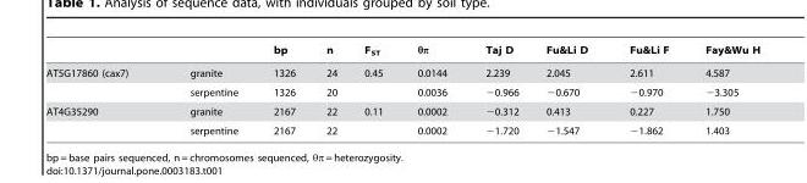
<table><thead><tr><td></td><td></td><td>bp</td><td>n</td><td>F<sub>ST</sub></td><td>θπ</td><td>Taj D</td><td>Fu&amp;Li D</td><td>Fu&amp;Li F</td><td>Fay&amp;Wu H</td></tr></thead><tbody><tr><td rowspan="2">AT5G17860 (cax7)</td><td>granite</td><td>1326</td><td>24</td><td>0.45</td><td>0.0144</td><td>2.239</td><td>2.045</td><td>2.611</td><td>4.587</td></tr><tr><td>serpentine</td><td>1326</td><td>20</td><td></td><td>0.0036</td><td>−0.966</td><td>−0.670</td><td>−0.970</td><td>−3.305</td></tr><tr><td rowspan="2">AT4G35290</td><td>granite</td><td>2167</td><td>22</td><td>0.11</td><td>0.0002</td><td>−0.312</td><td>0.413</td><td>0.227</td><td>1.750</td></tr><tr><td>serpentine</td><td>2167</td><td>22</td><td></td><td>0.0002</td><td>−1.720</td><td>−1.547</td><td>−1.862</td><td>1.403</td></tr></tbody></table>